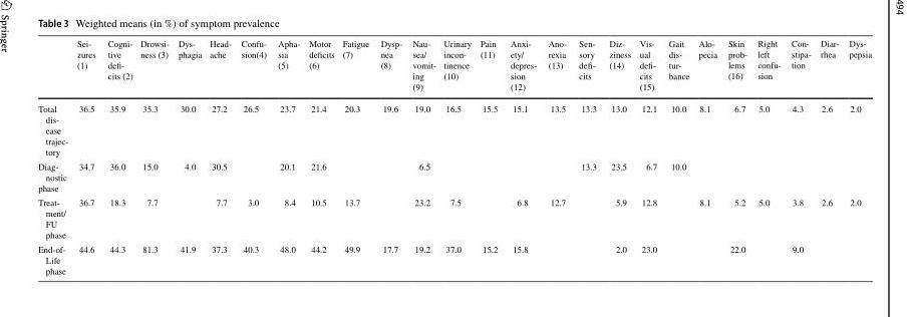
<table><thead><tr><td></td><td>Sei- zures (1)</td><td>Cogni- tive defi- cits (2)</td><td>Drowsi- ness (3)</td><td>Dys- phagia</td><td>Head- ache</td><td>Confu- sion(4)</td><td>Apha- sia (5)</td><td>Motor deficits (6)</td><td>Fatigue (7)</td><td>Dysp- nea (8)</td><td>Nau- sea/ vomit- ing (9)</td><td>Urinary incon- tinence (10)</td><td>Pain (11)</td><td>Anxi- ety/ depres- sion (12)</td><td>Ano- rexia (13)</td><td>Sen- sory defi- cits</td><td>Diz- ziness (14)</td><td>Vis- ual defi- cits (15)</td><td>Gait dis- tur- bance</td><td>Alo- pecia</td><td>Skin prob- lems (16)</td><td>Right left confu- sion</td><td>Con- stipa- tion</td><td>Diar- rhea</td><td>Dys- pepsia</td></tr></thead><tbody><tr><td>Total dis- ease trajec- tory</td><td>36.5</td><td>35.9</td><td>35.3</td><td>30.0</td><td>27.2</td><td>26.5</td><td>23.7</td><td>21.4</td><td>20.3</td><td>19.6</td><td>19.0</td><td>16.5</td><td>15.5</td><td>15.1</td><td>13.5</td><td>13.3</td><td>13.0</td><td>12.1</td><td>10.0</td><td>8.1</td><td>6.7</td><td>5.0</td><td>4.3</td><td>2.6</td><td>2.0</td></tr><tr><td>Diag- nostic phase</td><td>34.7</td><td>36.0</td><td>15.0</td><td>4.0</td><td>30.5</td><td></td><td>20.1</td><td>21.6</td><td></td><td></td><td>6.5</td><td></td><td></td><td></td><td></td><td>13.3</td><td>23.5</td><td>6.7</td><td>10.0</td><td></td><td></td><td></td><td></td><td></td><td></td></tr><tr><td>Treat- ment/ FU phase</td><td>36.7</td><td>18.3</td><td>7.7</td><td></td><td>7.7</td><td>3.0</td><td>8.4</td><td>10.5</td><td>13.7</td><td></td><td>23.2</td><td>7.5</td><td></td><td>6.8</td><td>12.7</td><td></td><td>5.9</td><td>12.8</td><td></td><td>8.1</td><td>5.2</td><td>5.0</td><td>3.8</td><td>2.6</td><td>2.0</td></tr><tr><td>End-of- Life phase</td><td>44.6</td><td>44.3</td><td>81.3</td><td>41.9</td><td>37.3</td><td>40.3</td><td>48.0</td><td>44.2</td><td>49.9</td><td>17.7</td><td>19.2</td><td>37.0</td><td>15.2</td><td>15.8</td><td></td><td></td><td>2.0</td><td>23.0</td><td></td><td></td><td>22.0</td><td></td><td>9.0</td><td></td><td></td></tr></tbody></table>